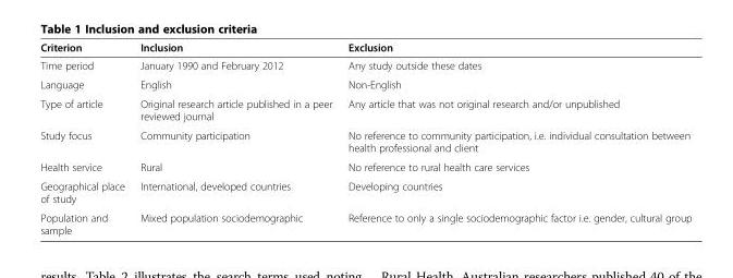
<table><thead><tr><td>Criterion</td><td>Inclusion</td><td>Exclusion</td></tr></thead><tbody><tr><td>Time period</td><td>January 1990 and February 2012</td><td>Any study outside these dates</td></tr><tr><td>Language</td><td>English</td><td>Non-English</td></tr><tr><td>Type of article</td><td>Original research article published in a peer reviewed journal</td><td>Any article that was not original research and/or unpublished</td></tr><tr><td>Study focus</td><td>Community participation</td><td>No reference to community participation, i.e. individual consultation between health professional and client</td></tr><tr><td>Health service</td><td>Rural</td><td>No reference to rural health care services</td></tr><tr><td>Geographical place of study</td><td>International, developed countries</td><td>Developing countries</td></tr><tr><td>Population and sample</td><td>Mixed population sociodemographic</td><td>Reference to only a single sociodemographic factor i.e. gender, cultural group</td></tr></tbody></table>